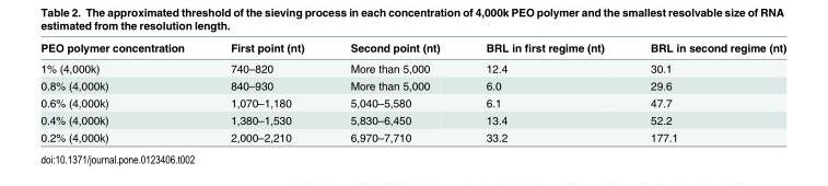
<table><thead><tr><td>PEO polymer concentration</td><td>First point (nt)</td><td>Second point (nt)</td><td>BRL in first regime (nt)</td><td>BRL in second regime (nt)</td></tr></thead><tbody><tr><td>1% (4,000k)</td><td>740–820</td><td>More than 5,000</td><td>12.4</td><td>30.1</td></tr><tr><td>0.8% (4,000k)</td><td>840–930</td><td>More than 5,000</td><td>6.0</td><td>29.6</td></tr><tr><td>0.6% (4,000k)</td><td>1,070–1,180</td><td>5,040–5,580</td><td>6.1</td><td>47.7</td></tr><tr><td>0.4% (4,000k)</td><td>1,380–1,530</td><td>5,830–6,450</td><td>13.4</td><td>52.2</td></tr><tr><td>0.2% (4,000k)</td><td>2,000–2,210</td><td>6,970–7,710</td><td>33.2</td><td>177.1</td></tr></tbody></table>